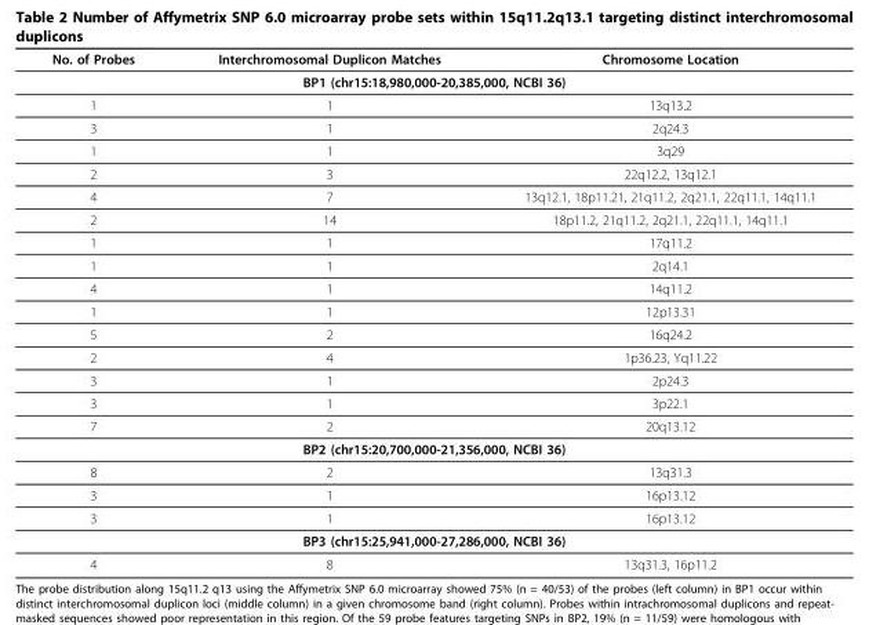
<table><thead><tr><td>No. of Probes</td><td>Interchromosomal Duplicon Matches</td><td>Chromosome Location</td></tr></thead><tbody><tr><td colspan="3">BP1 (chr15:18,980,000-20,385,000, NCBI 36)</td></tr><tr><td>1</td><td>1</td><td>13q13.2</td></tr><tr><td>3</td><td>1</td><td>2q24.3</td></tr><tr><td>1</td><td>1</td><td>3q29</td></tr><tr><td>2</td><td>3</td><td>22q12.2, 13q12.1</td></tr><tr><td>4</td><td>7</td><td>13q12.1, 18p11.21, 21q11.2, 2q21.1, 22q11.1, 14q11.1</td></tr><tr><td>2</td><td>14</td><td>18p11.2, 21q11.2, 2q21.1, 22q11.1, 14q11.1</td></tr><tr><td>1</td><td>1</td><td>17q11.2</td></tr><tr><td>1</td><td>1</td><td>2q14.1</td></tr><tr><td>4</td><td>1</td><td>14q11.2</td></tr><tr><td>1</td><td>1</td><td>12p13.31</td></tr><tr><td>5</td><td>2</td><td>16q24.2</td></tr><tr><td>2</td><td>4</td><td>1p36.23, Yq11.22</td></tr><tr><td>3</td><td>1</td><td>2p24.3</td></tr><tr><td>3</td><td>1</td><td>3p22.1</td></tr><tr><td>7</td><td>2</td><td>20q13.12</td></tr><tr><td colspan="3">BP2 (chr15:20,700,000-21,356,000, NCBI 36)</td></tr><tr><td>8</td><td>2</td><td>13q31.3</td></tr><tr><td>3</td><td>1</td><td>16p13.12</td></tr><tr><td>3</td><td>1</td><td>16p13.12</td></tr><tr><td colspan="3">BP3 (chr15:25,941,000-27,286,000, NCBI 36)</td></tr><tr><td>4</td><td>8</td><td>13q31.3, 16p11.2</td></tr></tbody></table>